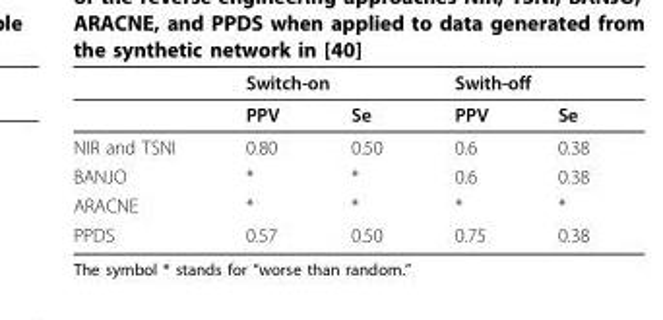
<table><thead><tr><td rowspan="2"></td><td colspan="2">Switch-on</td><td colspan="2">Swith-off</td></tr><tr><td>PPV</td><td>Se</td><td>PPV</td><td>Se</td></tr></thead><tbody><tr><td>NIR and TSNI</td><td>0.80</td><td>0.50</td><td>0.6</td><td>0.38</td></tr><tr><td>BANJO</td><td>*</td><td>*</td><td>0.6</td><td>0.38</td></tr><tr><td>ARACNE</td><td>*</td><td>*</td><td>*</td><td>*</td></tr><tr><td>PPDS</td><td>0.57</td><td>0.50</td><td>0.75</td><td>0.38</td></tr></tbody></table>